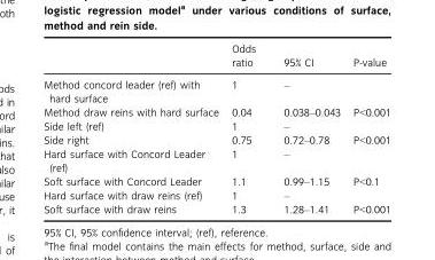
<table><thead><tr><td></td><td>Odds ratio</td><td>95% CI</td><td>P-value</td></tr></thead><tbody><tr><td>Method concord leader (ref) with hard surface</td><td>1</td><td>–</td><td></td></tr><tr><td>Method draw reins with hard surface</td><td>0.04</td><td>0.038–0.043</td><td>P&lt;0.001</td></tr><tr><td>Side left (ref)</td><td>1</td><td>–</td><td></td></tr><tr><td>Side right</td><td>0.75</td><td>0.72–0.78</td><td>P&lt;0.001</td></tr><tr><td>Hard surface with Concord Leader (ref)</td><td>1</td><td>–</td><td></td></tr><tr><td>Soft surface with Concord Leader</td><td>1.1</td><td>0.99–1.15</td><td>P&lt;0.1</td></tr><tr><td>Hard surface with draw reins (ref)</td><td>1</td><td>–</td><td></td></tr><tr><td>Soft surface with draw reins</td><td>1.3</td><td>1.28–1.41</td><td>P&lt;0.001</td></tr></tbody></table>